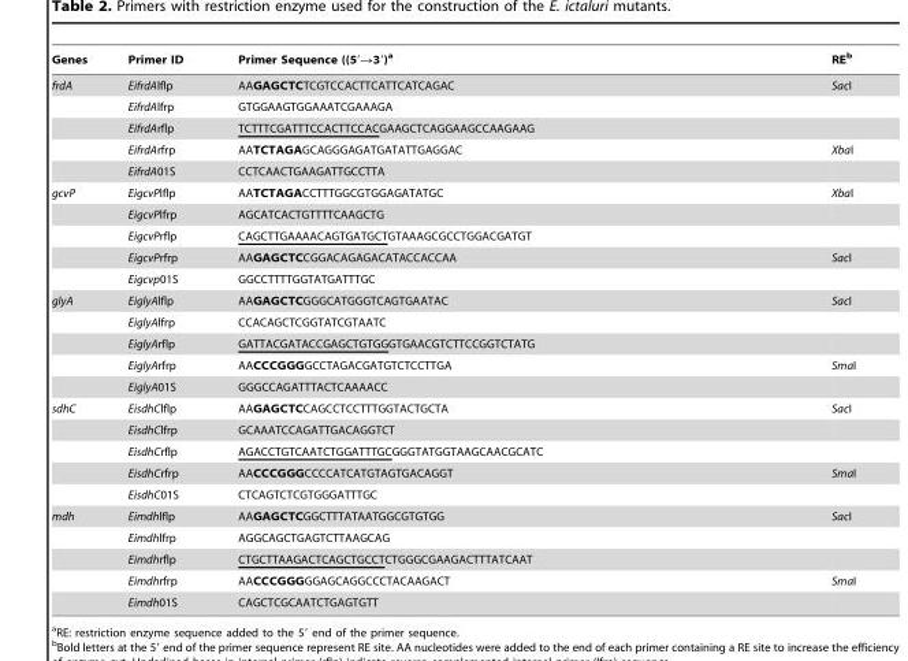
<table><thead><tr><td>Genes</td><td>Primer ID</td><td>Primer Sequence ((5′→3′)<sup>a</sup></td><td>RE<sup>b</sup></td></tr></thead><tbody><tr><td rowspan="5">frdA</td><td>EifrdAlflp</td><td>AAGAGCTCTCGTCCACTTCATTCATCAGAC</td><td>SacI</td></tr><tr><td>EifrdAlfrp</td><td>GTGGAAGTGGAAATCGAAAGA</td><td></td></tr><tr><td>EifrdArflp</td><td>TCTTTCGATTTCCACTTCCACGAAGCTCAGGAAGCCAAGAAG</td><td></td></tr><tr><td>EifrdArfrp</td><td>AATCTAGAGCAGGGAGATGATATTGAGGAC</td><td>XbaI</td></tr><tr><td>EifrdA01S</td><td>CCTCAACTGAAGATTGCCTTA</td><td></td></tr><tr><td rowspan="5">gcvP</td><td>EigcvPlflp</td><td>AATCTAGACCTTTGGCGTGGAGATATGC</td><td>XbaI</td></tr><tr><td>EigcvPlfrp</td><td>AGCATCACTGTTTTCAAGCTG</td><td></td></tr><tr><td>EigcvPrflp</td><td>CAGCTTGAAAACAGTGATGCTGTAAAGCGCCTGGACGATGT</td><td></td></tr><tr><td>EigcvPrfrp</td><td>AAGAGCTCCGGACAGAGACATACCACCAA</td><td>SacI</td></tr><tr><td>Eigcvp01S</td><td>GGCCTTTTGGTATGATTTGC</td><td></td></tr><tr><td rowspan="5">glyA</td><td>EiglyAlflp</td><td>AAGAGCTCGGGCATGGGTCAGTGAATAC</td><td>SacI</td></tr><tr><td>EiglyAlfrp</td><td>CCACAGCTCGGTATCGTAATC</td><td></td></tr><tr><td>EiglyArflp</td><td>GATTACGATACCGAGCTGTGGGTGAACGTCTTCCGGTCTATG</td><td></td></tr><tr><td>EiglyArfrp</td><td>AACCCGGGGCCTAGACGATGTCTCCTTGA</td><td>SmaI</td></tr><tr><td>EiglyA01S</td><td>GGGCCAGATTTACTCAAAACC</td><td></td></tr><tr><td rowspan="5">sdhC</td><td>EisdhClflp</td><td>AAGAGCTCCAGCCTCCTTTGGTACTGCTA</td><td>SacI</td></tr><tr><td>EisdhClfrp</td><td>GCAAATCCAGATTGACAGGTCT</td><td></td></tr><tr><td>EisdhCrflp</td><td>AGACCTGTCAATCTGGATTTGCGGGTATGGTAAGCAACGCATC</td><td></td></tr><tr><td>EisdhCrfrp</td><td>AACCCGGGCCCCATCATGTAGTGACAGGT</td><td>SmaI</td></tr><tr><td>EisdhC01S</td><td>CTCAGTCTCGTGGGATTTGC</td><td></td></tr><tr><td rowspan="5">mdh</td><td>Eimdhlflp</td><td>AAGAGCTCGGCTTTATAATGGCGTGTGG</td><td>SacI</td></tr><tr><td>Eimdhlfrp</td><td>AGGCAGCTGAGTCTTAAGCAG</td><td></td></tr><tr><td>Eimdhrflp</td><td>CTGCTTAAGACTCAGCTGCCTCTGGGCGAAGACTTTATCAAT</td><td></td></tr><tr><td>Eimdhrfrp</td><td>AACCCGGGGGAGCAGGCCCTACAAGACT</td><td>SmaI</td></tr><tr><td>Eimdh01S</td><td>CAGCTCGCAATCTGAGTGTT</td><td></td></tr></tbody></table>